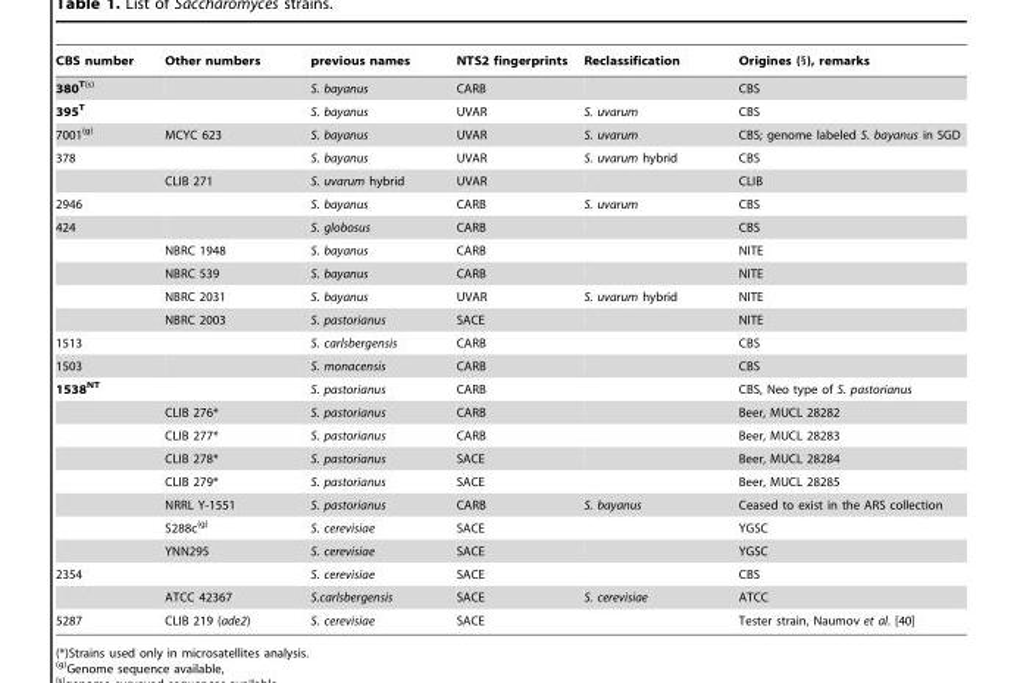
<table><thead><tr><td>CBS number</td><td>Other numbers</td><td>previous names</td><td>NTS2 fingerprints</td><td>Reclassification</td><td>Origines (§), remarks</td></tr></thead><tbody><tr><td>380<sup>T</sup>(s)</td><td></td><td>S. bayanus</td><td>CARB</td><td></td><td>CBS</td></tr><tr><td>395<sup>T</sup></td><td></td><td>S. bayanus</td><td>UVAR</td><td>S. uvarum</td><td>CBS</td></tr><tr><td>7001(g)</td><td>MCYC 623</td><td>S. bayanus</td><td>UVAR</td><td>S. uvarum</td><td>CBS; genome labeled S. bayanus in SGD</td></tr><tr><td rowspan="2">378</td><td></td><td>S. bayanus</td><td>UVAR</td><td>S. uvarum hybrid</td><td>CBS</td></tr><tr><td>CLIB 271</td><td>S. uvarum hybrid</td><td>UVAR</td><td></td><td>CLIB</td></tr><tr><td>2946</td><td></td><td>S. bayanus</td><td>CARB</td><td>S. uvarum</td><td>CBS</td></tr><tr><td rowspan="5">424</td><td></td><td>S. globosus</td><td>CARB</td><td></td><td>CBS</td></tr><tr><td>NBRC 1948</td><td>S. bayanus</td><td>CARB</td><td></td><td>NITE</td></tr><tr><td>NBRC 539</td><td>S. bayanus</td><td>CARB</td><td></td><td>NITE</td></tr><tr><td>NBRC 2031</td><td>S. bayanus</td><td>UVAR</td><td>S. uvarum hybrid</td><td>NITE</td></tr><tr><td>NBRC 2003</td><td>S. pastorianus</td><td>SACE</td><td></td><td>NITE</td></tr><tr><td>1513</td><td></td><td>S. carlsbergensis</td><td>CARB</td><td></td><td>CBS</td></tr><tr><td>1503</td><td></td><td>S. monacensis</td><td>CARB</td><td></td><td>CBS</td></tr><tr><td rowspan="8">1538<sup>NT</sup></td><td></td><td>S. pastorianus</td><td>CARB</td><td></td><td>CBS, Neo type of S. pastorianus</td></tr><tr><td>CLIB 276*</td><td>S. pastorianus</td><td>CARB</td><td></td><td>Beer, MUCL 28282</td></tr><tr><td>CLIB 277*</td><td>S. pastorianus</td><td>CARB</td><td></td><td>Beer, MUCL 28283</td></tr><tr><td>CLIB 278*</td><td>S. pastorianus</td><td>SACE</td><td></td><td>Beer, MUCL 28284</td></tr><tr><td>CLIB 279*</td><td>S. pastorianus</td><td>SACE</td><td></td><td>Beer, MUCL 28285</td></tr><tr><td>NRRL Y-1551</td><td>S. pastorianus</td><td>CARB</td><td>S. bayanus</td><td>Ceased to exist in the ARS collection</td></tr><tr><td>S288c(g)</td><td>S. cerevisiae</td><td>SACE</td><td></td><td>YGSC</td></tr><tr><td>YNN295</td><td>S. cerevisiae</td><td>SACE</td><td></td><td>YGSC</td></tr><tr><td rowspan="2">2354</td><td></td><td>S. cerevisiae</td><td>SACE</td><td></td><td>CBS</td></tr><tr><td>ATCC 42367</td><td>S.carlsbergensis</td><td>SACE</td><td>S. cerevisiae</td><td>ATCC</td></tr><tr><td>5287</td><td>CLIB 219 (ade2)</td><td>S. cerevisiae</td><td>SACE</td><td></td><td>Tester strain, Naumov et al. [40]</td></tr></tbody></table>